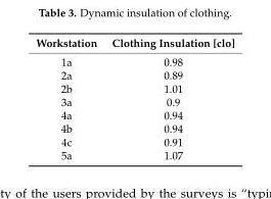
<table><thead><tr><td>Workstation</td><td>Clothing Insulation [clo]</td></tr></thead><tbody><tr><td>1a</td><td>0.98</td></tr><tr><td>2a</td><td>0.89</td></tr><tr><td>2b</td><td>1.01</td></tr><tr><td>3a</td><td>0.9</td></tr><tr><td>4a</td><td>0.94</td></tr><tr><td>4b</td><td>0.94</td></tr><tr><td>4c</td><td>0.91</td></tr><tr><td>5a</td><td>1.07</td></tr></tbody></table>